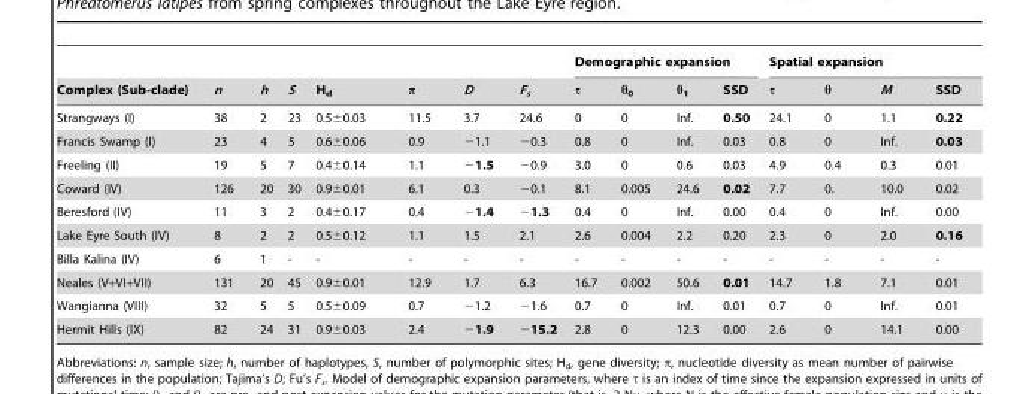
<table><thead><tr><td rowspan="2">Complex (Sub-clade)</td><td rowspan="2">n</td><td rowspan="2">h</td><td rowspan="2">S</td><td rowspan="2">H<sub>d</sub></td><td rowspan="2">π</td><td rowspan="2">D</td><td rowspan="2">F<sub>s</sub></td><td colspan="4">Demographic expansion</td><td colspan="4">Spatial expansion</td></tr><tr><td>τ</td><td>θ<sub>0</sub></td><td>θ<sub>1</sub></td><td>SSD</td><td>τ</td><td>θ</td><td>M</td><td>SSD</td></tr></thead><tbody><tr><td>Strangways (I)</td><td>38</td><td>2</td><td>23</td><td>0.5±0.03</td><td>11.5</td><td>3.7</td><td>24.6</td><td>0</td><td>0</td><td>Inf.</td><td>0.50</td><td>24.1</td><td>0</td><td>1.1</td><td>0.22</td></tr><tr><td>Francis Swamp (I)</td><td>23</td><td>4</td><td>5</td><td>0.6±0.06</td><td>0.9</td><td>−1.1</td><td>−0.3</td><td>0.8</td><td>0</td><td>Inf.</td><td>0.03</td><td>0.8</td><td>0</td><td>Inf.</td><td>0.03</td></tr><tr><td>Freeling (II)</td><td>19</td><td>5</td><td>7</td><td>0.4±0.14</td><td>1.1</td><td>−1.5</td><td>−0.9</td><td>3.0</td><td>0</td><td>0.6</td><td>0.03</td><td>4.9</td><td>0.4</td><td>0.3</td><td>0.01</td></tr><tr><td>Coward (IV)</td><td>126</td><td>20</td><td>30</td><td>0.9±0.01</td><td>6.1</td><td>0.3</td><td>−0.1</td><td>8.1</td><td>0.005</td><td>24.6</td><td>0.02</td><td>7.7</td><td>0.</td><td>10.0</td><td>0.02</td></tr><tr><td>Beresford (IV)</td><td>11</td><td>3</td><td>2</td><td>0.4±0.17</td><td>0.4</td><td>−1.4</td><td>−1.3</td><td>0.4</td><td>0</td><td>Inf.</td><td>0.00</td><td>0.4</td><td>0</td><td>Inf.</td><td>0.00</td></tr><tr><td>Lake Eyre South (IV)</td><td>8</td><td>2</td><td>2</td><td>0.5±0.12</td><td>1.1</td><td>1.5</td><td>2.1</td><td>2.6</td><td>0.004</td><td>2.2</td><td>0.20</td><td>2.3</td><td>0</td><td>2.0</td><td>0.16</td></tr><tr><td>Billa Kalina (IV)</td><td>6</td><td>1</td><td>-</td><td>-</td><td>-</td><td>-</td><td>-</td><td>-</td><td>-</td><td>-</td><td>-</td><td>-</td><td>-</td><td>-</td><td>-</td></tr><tr><td>Neales (V+VI+VII)</td><td>131</td><td>20</td><td>45</td><td>0.9±0.01</td><td>12.9</td><td>1.7</td><td>6.3</td><td>16.7</td><td>0.002</td><td>50.6</td><td>0.01</td><td>14.7</td><td>1.8</td><td>7.1</td><td>0.01</td></tr><tr><td>Wangianna (VIII)</td><td>32</td><td>5</td><td>5</td><td>0.5±0.09</td><td>0.7</td><td>−1.2</td><td>−1.6</td><td>0.7</td><td>0</td><td>Inf.</td><td>0.01</td><td>0.7</td><td>0</td><td>Inf.</td><td>0.01</td></tr><tr><td>Hermit Hills (IX)</td><td>82</td><td>24</td><td>31</td><td>0.9±0.03</td><td>2.4</td><td>−1.9</td><td>−15.2</td><td>2.8</td><td>0</td><td>12.3</td><td>0.00</td><td>2.6</td><td>0</td><td>14.1</td><td>0.00</td></tr></tbody></table>